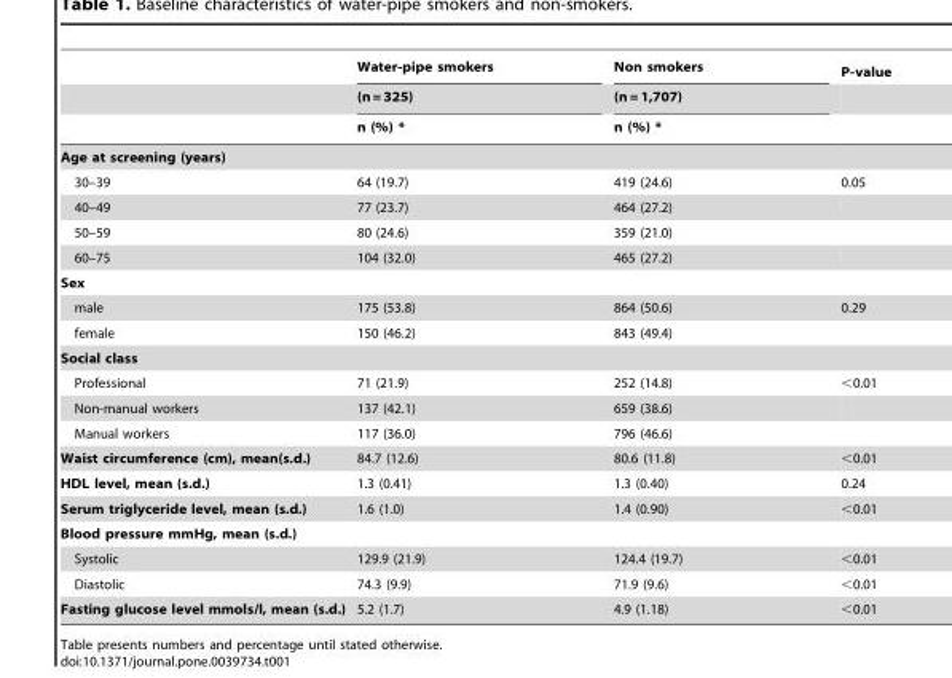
<table><thead><tr><td rowspan="3"></td><td rowspan="3">Water-pipe smokers (n = 325) n (%) *</td><td rowspan="3">Non smokers (n = 1,707) n (%) *</td><td rowspan="3">P-value</td></tr><tr></tr><tr></tr></thead><tbody><tr><td colspan="4">Age at screening (years)</td></tr><tr><td>30–39</td><td>64 (19.7)</td><td>419 (24.6)</td><td>0.05</td></tr><tr><td>40–49</td><td>77 (23.7)</td><td>464 (27.2)</td><td></td></tr><tr><td>50–59</td><td>80 (24.6)</td><td>359 (21.0)</td><td></td></tr><tr><td>60–75</td><td>104 (32.0)</td><td>465 (27.2)</td><td></td></tr><tr><td colspan="4">Sex</td></tr><tr><td>male</td><td>175 (53.8)</td><td>864 (50.6)</td><td>0.29</td></tr><tr><td>female</td><td>150 (46.2)</td><td>843 (49.4)</td><td></td></tr><tr><td colspan="4">Social class</td></tr><tr><td>Professional</td><td>71 (21.9)</td><td>252 (14.8)</td><td>&lt;0.01</td></tr><tr><td>Non-manual workers</td><td>137 (42.1)</td><td>659 (38.6)</td><td></td></tr><tr><td>Manual workers</td><td>117 (36.0)</td><td>796 (46.6)</td><td></td></tr><tr><td>Waist circumference (cm), mean(s.d.)</td><td>84.7 (12.6)</td><td>80.6 (11.8)</td><td>&lt;0.01</td></tr><tr><td>HDL level, mean (s.d.)</td><td>1.3 (0.41)</td><td>1.3 (0.40)</td><td>0.24</td></tr><tr><td>Serum triglyceride level, mean (s.d.)</td><td>1.6 (1.0)</td><td>1.4 (0.90)</td><td>&lt;0.01</td></tr><tr><td colspan="4">Blood pressure mmHg, mean (s.d.)</td></tr><tr><td>Systolic</td><td>129.9 (21.9)</td><td>124.4 (19.7)</td><td>&lt;0.01</td></tr><tr><td>Diastolic</td><td>74.3 (9.9)</td><td>71.9 (9.6)</td><td>&lt;0.01</td></tr><tr><td>Fasting glucose level mmols/l, mean (s.d.)</td><td>5.2 (1.7)</td><td>4.9 (1.18)</td><td>&lt;0.01</td></tr></tbody></table>